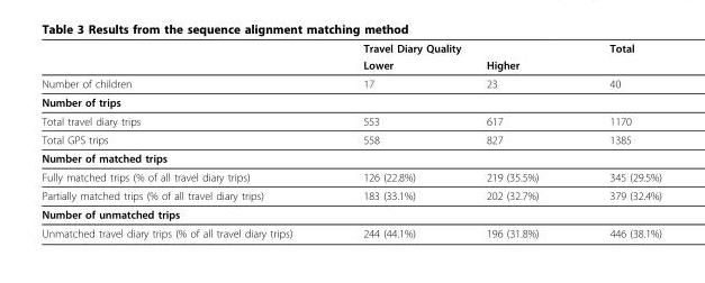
<table><thead><tr><td rowspan="2"></td><td colspan="2">Travel Diary Quality</td><td rowspan="2">Total</td></tr><tr><td>Lower</td><td>Higher</td></tr></thead><tbody><tr><td>Number of children</td><td>17</td><td>23</td><td>40</td></tr><tr><td colspan="4">Number of trips</td></tr><tr><td>Total travel diary trips</td><td>553</td><td>617</td><td>1170</td></tr><tr><td>Total GPS trips</td><td>558</td><td>827</td><td>1385</td></tr><tr><td colspan="4">Number of matched trips</td></tr><tr><td>Fully matched trips (% of all travel diary trips)</td><td>126 (22.8%)</td><td>219 (35.5%)</td><td>345 (29.5%)</td></tr><tr><td>Partially matched trips (% of all travel diary trips)</td><td>183 (33.1%)</td><td>202 (32.7%)</td><td>379 (32.4%)</td></tr><tr><td colspan="4">Number of unmatched trips</td></tr><tr><td>Unmatched travel diary trips (% of all travel diary trips)</td><td>244 (44.1%)</td><td>196 (31.8%)</td><td>446 (38.1%)</td></tr></tbody></table>